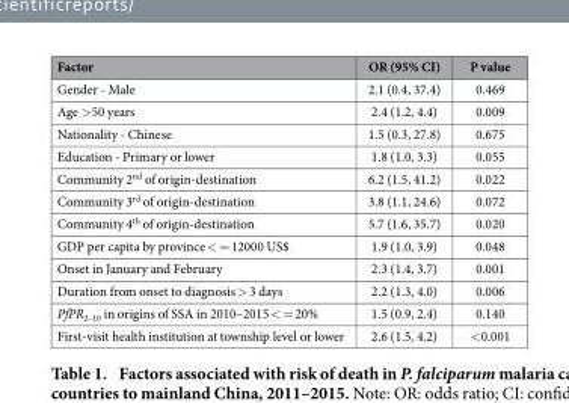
<table><thead><tr><td>Factor</td><td>OR (95% CI)</td><td>P value</td></tr></thead><tbody><tr><td>Gender - Male</td><td>2.1 (0.4, 37.4)</td><td>0.469</td></tr><tr><td>Age &gt; 50 years</td><td>2.4 (1.2, 4.4)</td><td>0.009</td></tr><tr><td>Nationality - Chinese</td><td>1.5 (0.3, 27.8)</td><td>0.675</td></tr><tr><td>Education - Primary or lower</td><td>1.8 (1.0, 3.3)</td><td>0.055</td></tr><tr><td>Community 2<sup>nd</sup> of origin-destination</td><td>6.2 (1.5, 41.2)</td><td>0.022</td></tr><tr><td>Community 3<sup>rd</sup> of origin-destination</td><td>3.8 (1.1, 24.6)</td><td>0.072</td></tr><tr><td>Community 4<sup>th</sup> of origin-destination</td><td>5.7 (1.6, 35.7)</td><td>0.020</td></tr><tr><td>GDP per capita by province &lt; = 12000 US$</td><td>1.9 (1.0, 3.9)</td><td>0.048</td></tr><tr><td>Onset in January and February</td><td>2.3 (1.4, 3.7)</td><td>0.001</td></tr><tr><td>Duration from onset to diagnosis &gt; 3 days</td><td>2.2 (1.3, 4.0)</td><td>0.006</td></tr><tr><td>PfPR<sub>2–10</sub> in origins of SSA in 2010–2015 &lt; = 20%</td><td>1.5 (0.9, 2.4)</td><td>0.140</td></tr><tr><td>First-visit health institution at township level or lower</td><td>2.6 (1.5, 4.2)</td><td>&lt; 0.001</td></tr></tbody></table>